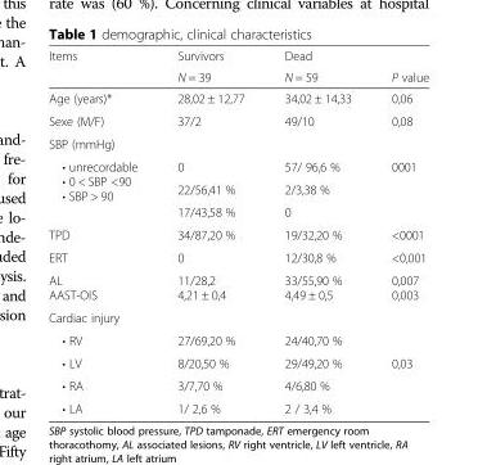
<table><thead><tr><td rowspan="2">Items</td><td rowspan="2">Survivors N = 39</td><td rowspan="2">Dead N = 59</td><td rowspan="2">P value</td></tr><tr></tr></thead><tbody><tr><td>Age (years)*</td><td>28,02 ± 12,77</td><td>34,02 ± 14,33</td><td>0,06</td></tr><tr><td>Sexe (M/F)</td><td>37/2</td><td>49/10</td><td>0,08</td></tr><tr><td colspan="4">SBP (mmHg)</td></tr><tr><td rowspan="3">• unrecordable • 0 &lt; SBP &lt;90 • SBP &gt; 90</td><td>0</td><td>57/ 96,6 %</td><td rowspan="3">0001</td></tr><tr><td>22/56,41 %</td><td>2/3,38 %</td></tr><tr><td>17/43,58 %</td><td>0</td></tr><tr><td>TPD</td><td>34/87,20 %</td><td>19/32,20 %</td><td>&lt;0001</td></tr><tr><td>ERT</td><td>0</td><td>12/30,8 %</td><td>&lt;0,001</td></tr><tr><td>AL AAST-OIS</td><td>11/28,2 4,21 ± 0,4</td><td>33/55,90 % 4,49 ± 0,5</td><td>0,007 0,003</td></tr><tr><td colspan="4">Cardiac injury</td></tr><tr><td>• RV</td><td>27/69,20 %</td><td>24/40,70 %</td><td></td></tr><tr><td>• LV</td><td>8/20,50 %</td><td>29/49,20 %</td><td>0,03</td></tr><tr><td>• RA</td><td>3/7,70 %</td><td>4/6,80 %</td><td></td></tr><tr><td>• LA</td><td>1/ 2,6 %</td><td>2 / 3,4 %</td><td></td></tr></tbody></table>